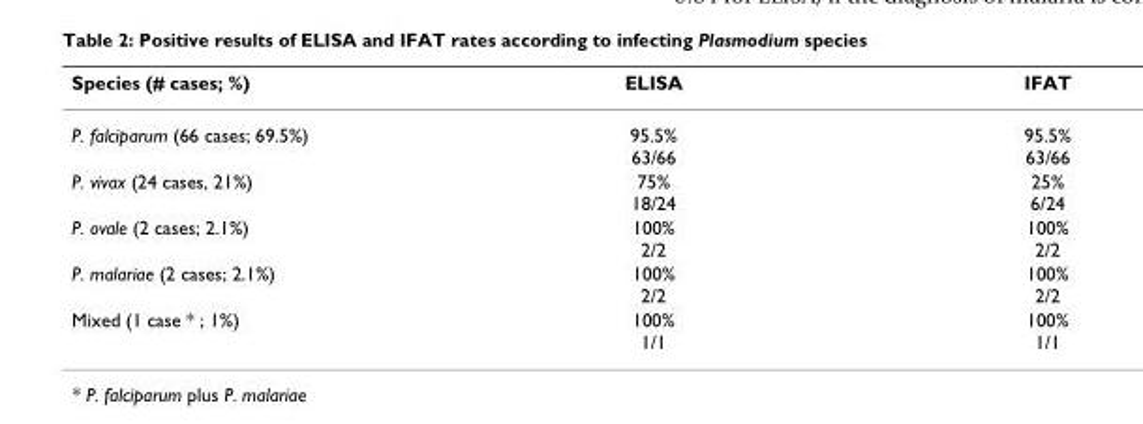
<table><thead><tr><td>Species (# cases; %)</td><td>ELISA</td><td>IFAT</td></tr></thead><tbody><tr><td>P. falciparum (66 cases; 69.5%)</td><td>95.5% 63/66</td><td>95.5% 63/66</td></tr><tr><td>P. vivax (24 cases, 21%)</td><td>75% 18/24</td><td>25% 6/24</td></tr><tr><td>P. ovale (2 cases; 2.1%)</td><td>100% 2/2</td><td>100% 2/2</td></tr><tr><td>P. malariae (2 cases; 2.1%)</td><td>100% 2/2</td><td>100% 2/2</td></tr><tr><td>Mixed (1 case * ; 1%)</td><td>100% 1/1</td><td>100% 1/1</td></tr></tbody></table>